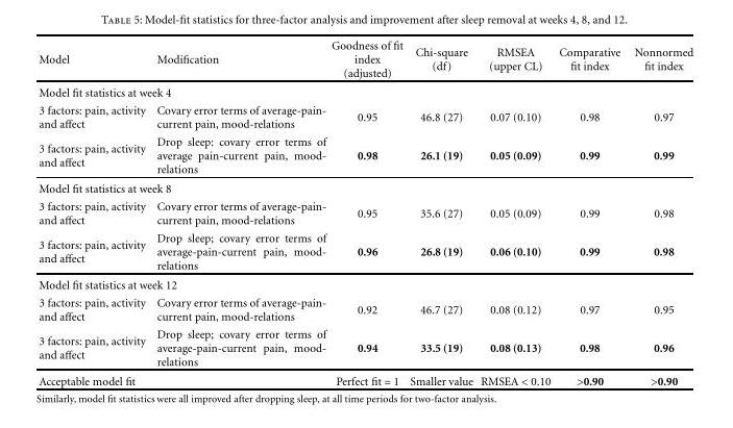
<table><thead><tr><td>Model</td><td>Modification</td><td>Goodness of fit index (adjusted)</td><td>Chi-square (df)</td><td>RMSEA (upper CL)</td><td>Comparative fit index</td><td>Nonnormed fit index</td></tr></thead><tbody><tr><td colspan="7">Model fit statistics at week 4</td></tr><tr><td>3 factors: pain, activity and affect</td><td>Covary error terms of average-pain- current pain, mood-relations</td><td>0.95</td><td>46.8 (27)</td><td>0.07 (0.10)</td><td>0.98</td><td>0.97</td></tr><tr><td>3 factors: pain, activity and affect</td><td>Drop sleep: covary error terms of average pain-current pain, mood- relations</td><td>0.98</td><td>26.1 (19)</td><td>0.05 (0.09)</td><td>0.99</td><td>0.99</td></tr><tr><td colspan="7">Model fit statistics at week 8</td></tr><tr><td>3 factors: pain, activity and affect</td><td>Covary error terms of average-pain- current pain, mood-relations</td><td>0.95</td><td>35.6 (27)</td><td>0.05 (0.09)</td><td>0.99</td><td>0.98</td></tr><tr><td>3 factors: pain, activity and affect</td><td>Drop sleep; covary error terms of average-pain-current pain, mood- relations</td><td>0.96</td><td>26.8 (19)</td><td>0.06 (0.10)</td><td>0.99</td><td>0.98</td></tr><tr><td colspan="7">Model fit statistics at week 12</td></tr><tr><td>3 factors: pain, activity and affect</td><td>Covary error terms of average-pain- current pain, mood-relations</td><td>0.92</td><td>46.7 (27)</td><td>0.08 (0.12)</td><td>0.97</td><td>0.95</td></tr><tr><td>3 factors: pain, activity and affect</td><td>Drop sleep; covary error terms of average-pain-current pain, mood- relations</td><td>0.94</td><td>33.5 (19)</td><td>0.08 (0.13)</td><td>0.98</td><td>0.96</td></tr><tr><td>Acceptable model fit</td><td></td><td>Perfect fit = 1</td><td>Smaller value</td><td>RMSEA &lt; 0.10</td><td>&gt;0.90</td><td>&gt;0.90</td></tr></tbody></table>